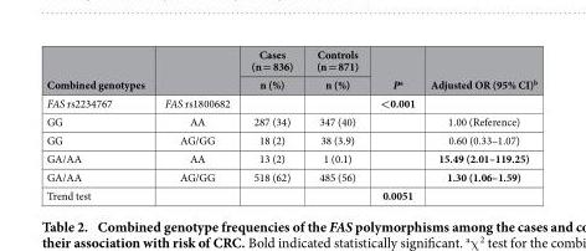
<table><thead><tr><td rowspan="2">Combined genotypes</td><td rowspan="2"></td><td rowspan="2">Cases (n = 836) n (%)</td><td rowspan="2">Controls (n = 871) n (%)</td><td rowspan="2">P<sup>a</sup></td><td rowspan="2">Adjusted OR (95% CI)<sup>b</sup></td></tr><tr></tr></thead><tbody><tr><td>FAS rs2234767</td><td>FAS rs1800682</td><td></td><td></td><td>&lt;0.001</td><td></td></tr><tr><td>GG</td><td>AA</td><td>287 (34)</td><td>347 (40)</td><td></td><td>1.00 (Reference)</td></tr><tr><td>GG</td><td>AG/GG</td><td>18 (2)</td><td>38 (3.9)</td><td></td><td>0.60 (0.33–1.07)</td></tr><tr><td>GA/AA</td><td>AA</td><td>13 (2)</td><td>1 (0.1)</td><td></td><td>15.49 (2.01–119.25)</td></tr><tr><td>GA/AA</td><td>AG/GG</td><td>518 (62)</td><td>485 (56)</td><td></td><td>1.30 (1.06–1.59)</td></tr><tr><td>Trend test</td><td></td><td></td><td></td><td>0.0051</td><td></td></tr></tbody></table>